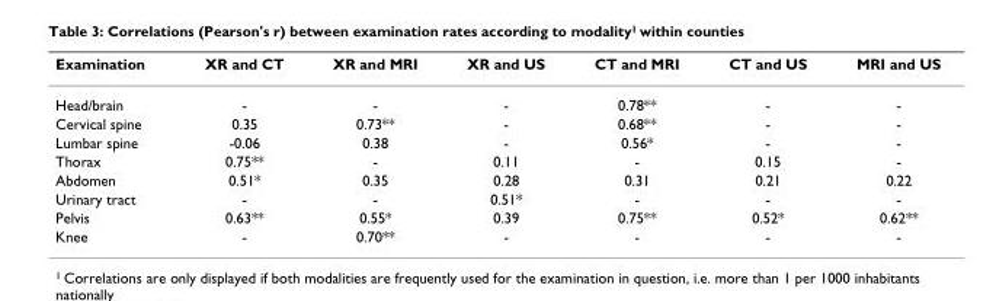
<table><thead><tr><td>Examination</td><td>XR and CT</td><td>XR and MRI</td><td>XR and US</td><td>CT and MRI</td><td>CT and US</td><td>MRI and US</td></tr></thead><tbody><tr><td>Head/brain</td><td>-</td><td>-</td><td>-</td><td>0.78**</td><td>-</td><td>-</td></tr><tr><td>Cervical spine</td><td>0.35</td><td>0.73**</td><td>-</td><td>0.68**</td><td>-</td><td>-</td></tr><tr><td>Lumbar spine</td><td>-0.06</td><td>0.38</td><td>-</td><td>0.56*</td><td>-</td><td>-</td></tr><tr><td>Thorax</td><td>0.75**</td><td>-</td><td>0.11</td><td>-</td><td>0.15</td><td>-</td></tr><tr><td>Abdomen</td><td>0.51*</td><td>0.35</td><td>0.28</td><td>0.31</td><td>0.21</td><td>0.22</td></tr><tr><td>Urinary tract</td><td>-</td><td>-</td><td>0.51*</td><td>-</td><td>-</td><td>-</td></tr><tr><td>Pelvis</td><td>0.63**</td><td>0.55*</td><td>0.39</td><td>0.75**</td><td>0.52*</td><td>0.62**</td></tr><tr><td>Knee</td><td>-</td><td>0.70**</td><td>-</td><td>-</td><td>-</td><td>-</td></tr></tbody></table>